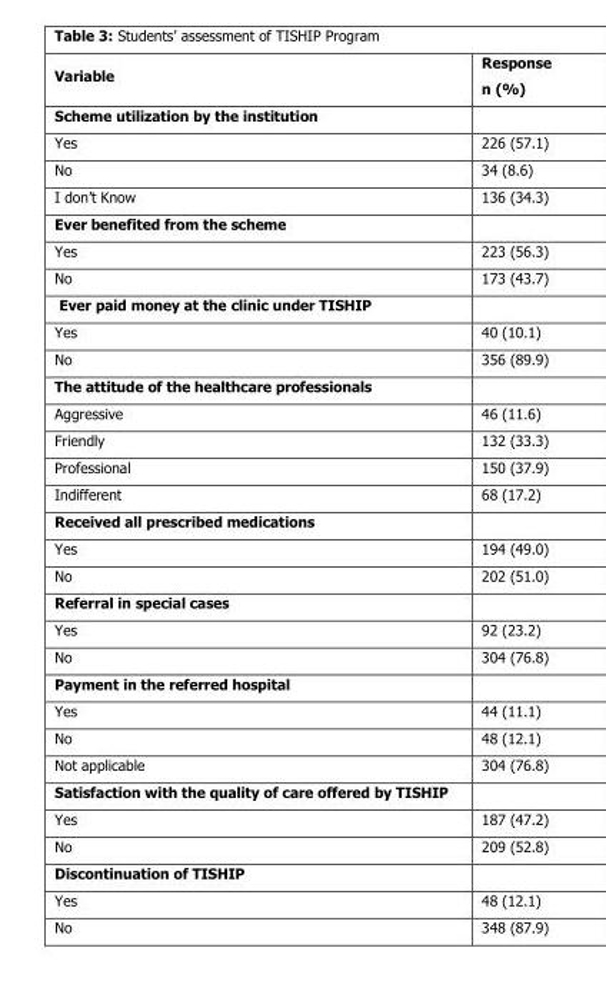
<table><thead><tr><td>Variable</td><td>Response n (%)</td></tr></thead><tbody><tr><td colspan="2">Scheme utilization by the institution</td></tr><tr><td>Yes</td><td>226 (57.1)</td></tr><tr><td>No</td><td>34 (8.6)</td></tr><tr><td>I don’t Know</td><td>136 (34.3)</td></tr><tr><td colspan="2">Ever benefited from the scheme</td></tr><tr><td>Yes</td><td>223 (56.3)</td></tr><tr><td>No</td><td>173 (43.7)</td></tr><tr><td colspan="2">Ever paid money at the clinic under TISHIP</td></tr><tr><td>Yes</td><td>40 (10.1)</td></tr><tr><td>No</td><td>356 (89.9)</td></tr><tr><td colspan="2">The attitude of the healthcare professionals</td></tr><tr><td>Aggressive</td><td>46 (11.6)</td></tr><tr><td>Friendly</td><td>132 (33.3)</td></tr><tr><td>Professional</td><td>150 (37.9)</td></tr><tr><td>Indifferent</td><td>68 (17.2)</td></tr><tr><td colspan="2">Received all prescribed medications</td></tr><tr><td>Yes</td><td>194 (49.0)</td></tr><tr><td>No</td><td>202 (51.0)</td></tr><tr><td colspan="2">Referral in special cases</td></tr><tr><td>Yes</td><td>92 (23.2)</td></tr><tr><td>No</td><td>304 (76.8)</td></tr><tr><td colspan="2">Payment in the referred hospital</td></tr><tr><td>Yes</td><td>44 (11.1)</td></tr><tr><td>No</td><td>48 (12.1)</td></tr><tr><td>Not applicable</td><td>304 (76.8)</td></tr><tr><td colspan="2">Satisfaction with the quality of care offered by TISHIP</td></tr><tr><td>Yes</td><td>187 (47.2)</td></tr><tr><td>No</td><td>209 (52.8)</td></tr><tr><td colspan="2">Discontinuation of TISHIP</td></tr><tr><td>Yes</td><td>48 (12.1)</td></tr><tr><td>No</td><td>348 (87.9)</td></tr></tbody></table>